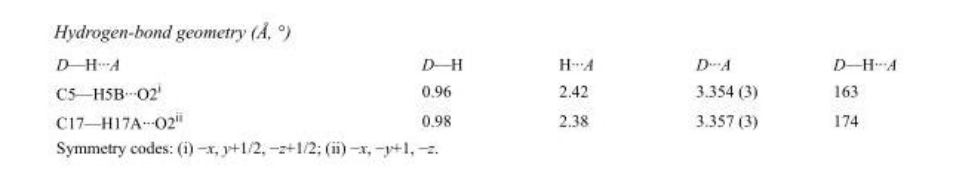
<table><tbody><tr><td>D—H···A</td><td>D—H</td><td>H···A</td><td>D···A</td><td>D—H···A</td></tr><tr><td>C5—H5B···O2<sup>i</sup></td><td>0.96</td><td>2.42</td><td>3.354 (3)</td><td>163</td></tr><tr><td>C17—H17A···O2<sup>ii</sup></td><td>0.98</td><td>2.38</td><td>3.357 (3)</td><td>174</td></tr></tbody></table>